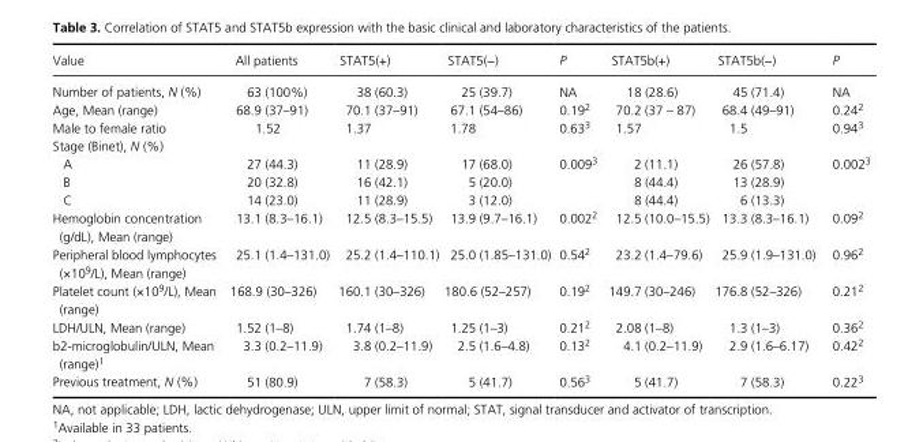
<table><thead><tr><td>Value</td><td>All patients</td><td>STAT5(+)</td><td>STAT5(−)</td><td>P</td><td>STAT5b(+)</td><td>STAT5b(−)</td><td>P</td></tr></thead><tbody><tr><td>Number of patients, N (%)</td><td>63 (100%)</td><td>38 (60.3)</td><td>25 (39.7)</td><td>NA</td><td>18 (28.6)</td><td>45 (71.4)</td><td>NA</td></tr><tr><td>Age, Mean (range)</td><td>68.9 (37–91)</td><td>70.1 (37–91)</td><td>67.1 (54–86)</td><td>0.192</td><td>70.2 (37 – 87)</td><td>68.4 (49–91)</td><td>0.242</td></tr><tr><td>Male to female ratio</td><td>1.52</td><td>1.37</td><td>1.78</td><td>0.633</td><td>1.57</td><td>1.5</td><td>0.943</td></tr><tr><td colspan="8">Stage (Binet), N (%)</td></tr><tr><td>A</td><td>27 (44.3)</td><td>11 (28.9)</td><td>17 (68.0)</td><td>0.0093</td><td>2 (11.1)</td><td>26 (57.8)</td><td>0.0023</td></tr><tr><td>B</td><td>20 (32.8)</td><td>16 (42.1)</td><td>5 (20.0)</td><td></td><td>8 (44.4)</td><td>13 (28.9)</td><td></td></tr><tr><td>C</td><td>14 (23.0)</td><td>11 (28.9)</td><td>3 (12.0)</td><td></td><td>8 (44.4)</td><td>6 (13.3)</td><td></td></tr><tr><td>Hemoglobin concentration (g/dL), Mean (range)</td><td>13.1 (8.3–16.1)</td><td>12.5 (8.3–15.5)</td><td>13.9 (9.7–16.1)</td><td>0.0022</td><td>12.5 (10.0–15.5)</td><td>13.3 (8.3–16.1)</td><td>0.092</td></tr><tr><td>Peripheral blood lymphocytes (×10<sup>9</sup>/L), Mean (range)</td><td>25.1 (1.4–131.0)</td><td>25.2 (1.4–110.1)</td><td>25.0 (1.85–131.0)</td><td>0.542</td><td>23.2 (1.4–79.6)</td><td>25.9 (1.9–131.0)</td><td>0.962</td></tr><tr><td>Platelet count (×10<sup>9</sup>/L), Mean (range)</td><td>168.9 (30–326)</td><td>160.1 (30–326)</td><td>180.6 (52–257)</td><td>0.192</td><td>149.7 (30–246)</td><td>176.8 (52–326)</td><td>0.212</td></tr><tr><td>LDH/ULN, Mean (range)</td><td>1.52 (1–8)</td><td>1.74 (1–8)</td><td>1.25 (1–3)</td><td>0.212</td><td>2.08 (1–8)</td><td>1.3 (1–3)</td><td>0.362</td></tr><tr><td>b2- microglobulin/ULN, Mean (range)1</td><td>3.3 (0.2–11.9)</td><td>3.8 (0.2–11.9)</td><td>2.5 (1.6–4.8)</td><td>0.132</td><td>4.1 (0.2–11.9)</td><td>2.9 (1.6–6.17)</td><td>0.422</td></tr><tr><td>Previous treatment, N (%)</td><td>51 (80.9)</td><td>7 (58.3)</td><td>5 (41.7)</td><td>0.563</td><td>5 (41.7)</td><td>7 (58.3)</td><td>0.223</td></tr></tbody></table>